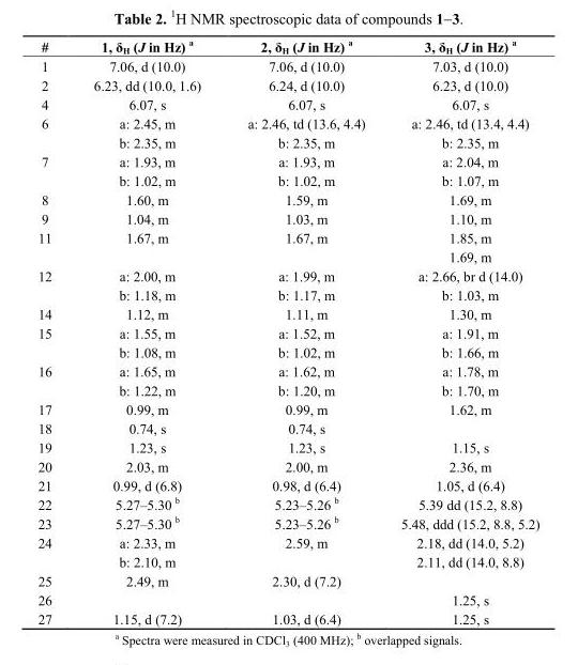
<table><thead><tr><td>#</td><td>1, δ<sub>H</sub> (J in Hz) <sup>a</sup></td><td>2, δ<sub>H</sub> (J in Hz) <sup>a</sup></td><td>3, δ<sub>H</sub> (J in Hz) <sup>a</sup></td></tr></thead><tbody><tr><td>1</td><td>7.06, d (10.0)</td><td>7.06, d (10.0)</td><td>7.03, d (10.0)</td></tr><tr><td>2</td><td>6.23, dd (10.0, 1.6)</td><td>6.24, d (10.0)</td><td>6.23, d (10.0)</td></tr><tr><td>4</td><td>6.07, s</td><td>6.07, s</td><td>6.07, s</td></tr><tr><td rowspan="2">6</td><td>a: 2.45, m</td><td>a: 2.46, td (13.6, 4.4)</td><td>a: 2.46, td (13.4, 4.4)</td></tr><tr><td>b: 2.35, m</td><td>b: 2.35, m</td><td>b: 2.35, m</td></tr><tr><td rowspan="2">7</td><td>a: 1.93, m</td><td>a: 1.93, m</td><td>a: 2.04, m</td></tr><tr><td>b: 1.02, m</td><td>b: 1.02, m</td><td>b: 1.07, m</td></tr><tr><td>8</td><td>1.60, m</td><td>1.59, m</td><td>1.69, m</td></tr><tr><td>9</td><td>1.04, m</td><td>1.03, m</td><td>1.10, m</td></tr><tr><td rowspan="2">11</td><td>1.67, m</td><td>1.67, m</td><td>1.85, m</td></tr><tr><td></td><td></td><td>1.69, m</td></tr><tr><td rowspan="2">12</td><td>a: 2.00, m</td><td>a: 1.99, m</td><td>a: 2.66, br d (14.0)</td></tr><tr><td>b: 1.18, m</td><td>b: 1.17, m</td><td>b: 1.03, m</td></tr><tr><td>14</td><td>1.12, m</td><td>1.11, m</td><td>1.30, m</td></tr><tr><td rowspan="2">15</td><td>a: 1.55, m</td><td>a: 1.52, m</td><td>a: 1.91, m</td></tr><tr><td>b: 1.08, m</td><td>b: 1.02, m</td><td>b: 1.66, m</td></tr><tr><td rowspan="2">16</td><td>a: 1.65, m</td><td>a: 1.62, m</td><td>a: 1.78, m</td></tr><tr><td>b: 1.22, m</td><td>b: 1.20, m</td><td>b: 1.70, m</td></tr><tr><td>17</td><td>0.99, m</td><td>0.99, m</td><td>1.62, m</td></tr><tr><td>18</td><td>0.74, s</td><td>0.74, s</td><td></td></tr><tr><td>19</td><td>1.23, s</td><td>1.23, s</td><td>1.15, s</td></tr><tr><td>20</td><td>2.03, m</td><td>2.00, m</td><td>2.36, m</td></tr><tr><td>21</td><td>0.99, d (6.8)</td><td>0.98, d (6.4)</td><td>1.05, d (6.4)</td></tr><tr><td>22</td><td>5.27–5.30 <sup>b</sup></td><td>5.23–5.26 <sup>b</sup></td><td>5.39 dd (15.2, 8.8)</td></tr><tr><td>23</td><td>5.27–5.30 <sup>b</sup></td><td>5.23–5.26 <sup>b</sup></td><td>5.48, ddd (15.2, 8.8, 5.2)</td></tr><tr><td rowspan="2">24</td><td>a: 2.33, m</td><td>2.59, m</td><td>2.18, dd (14.0, 5.2)</td></tr><tr><td>b: 2.10, m</td><td></td><td>2.11, dd (14.0, 8.8)</td></tr><tr><td>25</td><td>2.49, m</td><td>2.30, d (7.2)</td><td></td></tr><tr><td>26</td><td></td><td></td><td>1.25, s</td></tr><tr><td>27</td><td>1.15, d (7.2)</td><td>1.03, d (6.4)</td><td>1.25, s</td></tr></tbody></table>